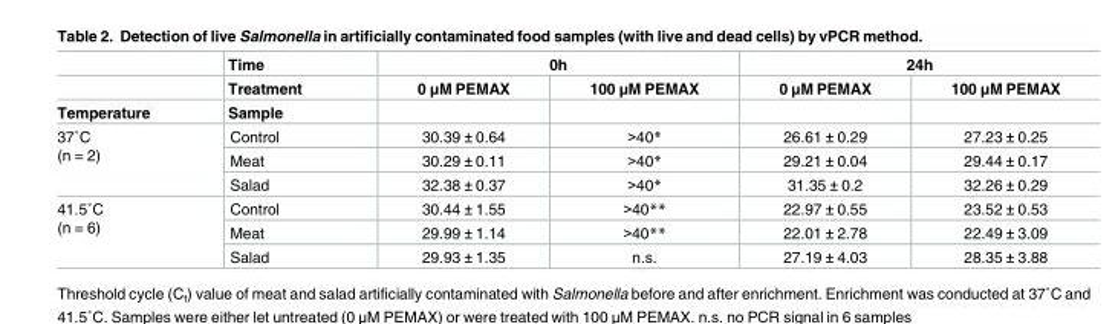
<table><thead><tr><td rowspan="3">Temperature</td><td rowspan="3">Time Treatment Sample</td><td colspan="2">0h</td><td colspan="2">24h</td></tr><tr><td rowspan="2">0 μM PEMAX</td><td rowspan="2">100 μM PEMAX</td><td rowspan="2">0 μM PEMAX</td><td rowspan="2">100 μM PEMAX</td></tr><tr></tr></thead><tbody><tr><td rowspan="3">37˚C (n = 2)</td><td>Control</td><td>30.39 ± 0.64</td><td>&gt;40*</td><td>26.61 ± 0.29</td><td>27.23 ± 0.25</td></tr><tr><td>Meat</td><td>30.29 ± 0.11</td><td>&gt;40*</td><td>29.21 ± 0.04</td><td>29.44 ± 0.17</td></tr><tr><td>Salad</td><td>32.38 ± 0.37</td><td>&gt;40*</td><td>31.35 ± 0.2</td><td>32.26 ± 0.29</td></tr><tr><td rowspan="3">41.5˚C (n = 6)</td><td>Control</td><td>30.44 ± 1.55</td><td>&gt;40**</td><td>22.97 ± 0.55</td><td>23.52 ± 0.53</td></tr><tr><td>Meat</td><td>29.99 ± 1.14</td><td>&gt;40**</td><td>22.01 ± 2.78</td><td>22.49 ± 3.09</td></tr><tr><td>Salad</td><td>29.93 ± 1.35</td><td>n.s.</td><td>27.19 ± 4.03</td><td>28.35 ± 3.88</td></tr></tbody></table>